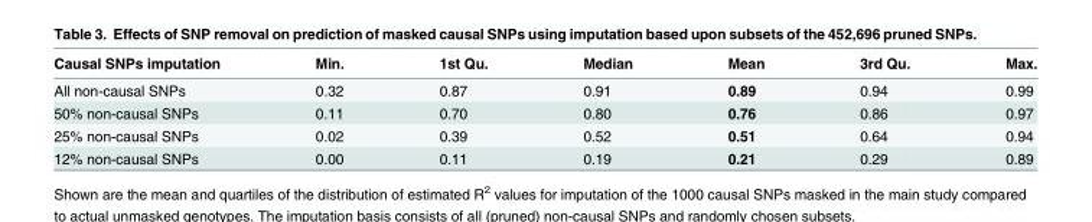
<table><thead><tr><td>Causal SNPs imputation</td><td>Min.</td><td>1st Qu.</td><td>Median</td><td>Mean</td><td>3rd Qu.</td><td>Max.</td></tr></thead><tbody><tr><td>All non-causal SNPs</td><td>0.32</td><td>0.87</td><td>0.91</td><td>0.89</td><td>0.94</td><td>0.99</td></tr><tr><td>50% non-causal SNPs</td><td>0.11</td><td>0.70</td><td>0.80</td><td>0.76</td><td>0.86</td><td>0.97</td></tr><tr><td>25% non-causal SNPs</td><td>0.02</td><td>0.39</td><td>0.52</td><td>0.51</td><td>0.64</td><td>0.94</td></tr><tr><td>12% non-causal SNPs</td><td>0.00</td><td>0.11</td><td>0.19</td><td>0.21</td><td>0.29</td><td>0.89</td></tr></tbody></table>